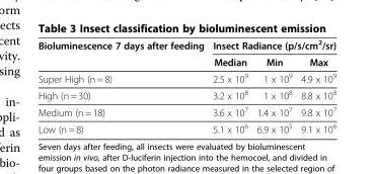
<table><thead><tr><td rowspan="2">Bioluminescence 7 days after feeding</td><td colspan="3">Insect Radiance (p/s/cm<sup>2</sup>/sr)</td></tr><tr><td>Median</td><td>Min</td><td>Max</td></tr></thead><tbody><tr><td>Super High (n = 8)</td><td>2.5 x 10<sup>9</sup></td><td>1 x 10<sup>9</sup></td><td>4.9 x 10<sup>9</sup></td></tr><tr><td>High (n = 30)</td><td>3.2 x 10<sup>8</sup></td><td>1 x 10<sup>8</sup></td><td>8.8 x 10<sup>8</sup></td></tr><tr><td>Medium (n = 18)</td><td>3.6 x 10<sup>7</sup></td><td>1.4 x 10<sup>7</sup></td><td>9.8 x 10<sup>7</sup></td></tr><tr><td>Low (n = 8)</td><td>5.1 x 10<sup>6</sup></td><td>6.9 x 10<sup>5</sup></td><td>9.1 x 10<sup>6</sup></td></tr></tbody></table>